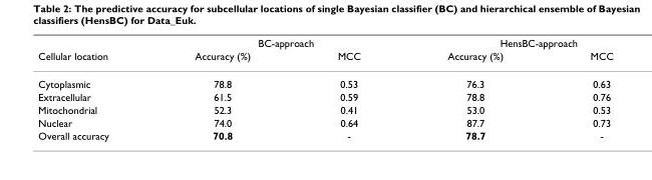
<table><thead><tr><td rowspan="2">Cellular location</td><td colspan="2">BC-approach</td><td colspan="2">HensBC-approach</td></tr><tr><td>Accuracy (%)</td><td>MCC</td><td>Accuracy (%)</td><td>MCC</td></tr></thead><tbody><tr><td>Cytoplasmic</td><td>78.8</td><td>0.53</td><td>76.3</td><td>0.63</td></tr><tr><td>Extracellular</td><td>61.5</td><td>0.59</td><td>78.8</td><td>0.76</td></tr><tr><td>Mitochondrial</td><td>52.3</td><td>0.41</td><td>53.0</td><td>0.53</td></tr><tr><td>Nuclear</td><td>74.0</td><td>0.64</td><td>87.7</td><td>0.73</td></tr><tr><td>Overall accuracy</td><td>70.8</td><td>-</td><td>78.7</td><td>-</td></tr></tbody></table>